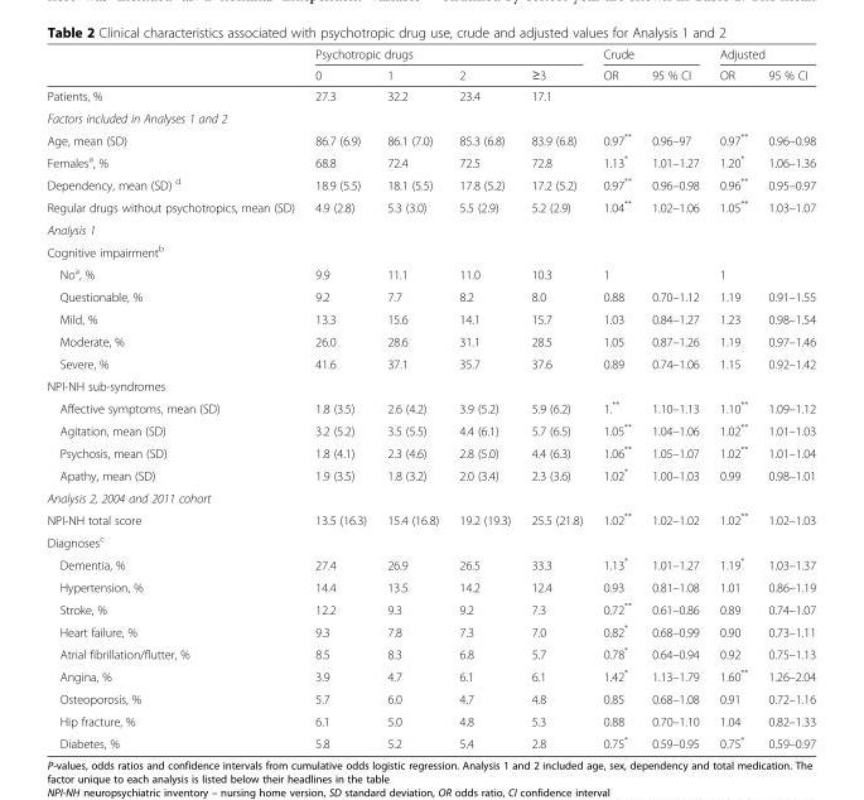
<table><thead><tr><td rowspan="2"></td><td colspan="4">Psychotropic drugs</td><td colspan="2">Crude</td><td colspan="2">Adjusted</td></tr><tr><td>0</td><td>1</td><td>2</td><td>≥3</td><td>OR</td><td>95 % CI</td><td>OR</td><td>95 % CI</td></tr></thead><tbody><tr><td>Patients, %</td><td>27.3</td><td>32.2</td><td>23.4</td><td>17.1</td><td></td><td></td><td></td><td></td></tr><tr><td colspan="9">Factors included in Analyses 1 and 2</td></tr><tr><td>Age, mean (SD)</td><td>86.7 (6.9)</td><td>86.1 (7.0)</td><td>85.3 (6.8)</td><td>83.9 (6.8)</td><td>0.97**</td><td>0.96–97</td><td>0.97**</td><td>0.96–0.98</td></tr><tr><td>Females<sup>a</sup>, %</td><td>68.8</td><td>72.4</td><td>72.5</td><td>72.8</td><td>1.13*</td><td>1.01–1.27</td><td>1.20*</td><td>1.06–1.36</td></tr><tr><td>Dependency, mean (SD) <sup>d</sup></td><td>18.9 (5.5)</td><td>18.1 (5.5)</td><td>17.8 (5.2)</td><td>17.2 (5.2)</td><td>0.97**</td><td>0.96–0.98</td><td>0.96**</td><td>0.95–0.97</td></tr><tr><td>Regular drugs without psychotropics, mean (SD)</td><td>4.9 (2.8)</td><td>5.3 (3.0)</td><td>5.5 (2.9)</td><td>5.2 (2.9)</td><td>1.04**</td><td>1.02–1.06</td><td>1.05**</td><td>1.03–1.07</td></tr><tr><td colspan="9">Analysis 1</td></tr><tr><td colspan="9">Cognitive impairment<sup>b</sup></td></tr><tr><td>No<sup>a</sup>, %</td><td>9.9</td><td>11.1</td><td>11.0</td><td>10.3</td><td>1</td><td></td><td>1</td><td></td></tr><tr><td>Questionable, %</td><td>9.2</td><td>7.7</td><td>8.2</td><td>8.0</td><td>0.88</td><td>0.70–1.12</td><td>1.19</td><td>0.91–1.55</td></tr><tr><td>Mild, %</td><td>13.3</td><td>15.6</td><td>14.1</td><td>15.7</td><td>1.03</td><td>0.84–1.27</td><td>1.23</td><td>0.98–1.54</td></tr><tr><td>Moderate, %</td><td>26.0</td><td>28.6</td><td>31.1</td><td>28.5</td><td>1.05</td><td>0.87–1.26</td><td>1.19</td><td>0.97–1.46</td></tr><tr><td>Severe, %</td><td>41.6</td><td>37.1</td><td>35.7</td><td>37.6</td><td>0.89</td><td>0.74–1.06</td><td>1.15</td><td>0.92–1.42</td></tr><tr><td colspan="9">NPI-NH sub-syndromes</td></tr><tr><td>Affective symptoms, mean (SD)</td><td>1.8 (3.5)</td><td>2.6 (4.2)</td><td>3.9 (5.2)</td><td>5.9 (6.2)</td><td>1.**</td><td>1.10–1.13</td><td>1.10**</td><td>1.09–1.12</td></tr><tr><td>Agitation, mean (SD)</td><td>3.2 (5.2)</td><td>3.5 (5.5)</td><td>4.4 (6.1)</td><td>5.7 (6.5)</td><td>1.05**</td><td>1.04–1.06</td><td>1.02**</td><td>1.01–1.03</td></tr><tr><td>Psychosis, mean (SD)</td><td>1.8 (4.1)</td><td>2.3 (4.6)</td><td>2.8 (5.0)</td><td>4.4 (6.3)</td><td>1.06**</td><td>1.05–1.07</td><td>1.02**</td><td>1.01–1.04</td></tr><tr><td>Apathy, mean (SD)</td><td>1.9 (3.5)</td><td>1.8 (3.2)</td><td>2.0 (3.4)</td><td>2.3 (3.6)</td><td>1.02*</td><td>1.00–1.03</td><td>0.99</td><td>0.98–1.01</td></tr><tr><td colspan="9">Analysis 2, 2004 and 2011 cohort</td></tr><tr><td>NPI-NH total score</td><td>13.5 (16.3)</td><td>15.4 (16.8)</td><td>19.2 (19.3)</td><td>25.5 (21.8)</td><td>1.02**</td><td>1.02–1.02</td><td>1.02**</td><td>1.02–1.03</td></tr><tr><td colspan="9">Diagnoses<sup>c</sup></td></tr><tr><td>Dementia, %</td><td>27.4</td><td>26.9</td><td>26.5</td><td>33.3</td><td>1.13*</td><td>1.01–1.27</td><td>1.19*</td><td>1.03–1.37</td></tr><tr><td>Hypertension, %</td><td>14.4</td><td>13.5</td><td>14.2</td><td>12.4</td><td>0.93</td><td>0.81–1.08</td><td>1.01</td><td>0.86–1.19</td></tr><tr><td>Stroke, %</td><td>12.2</td><td>9.3</td><td>9.2</td><td>7.3</td><td>0.72**</td><td>0.61–0.86</td><td>0.89</td><td>0.74–1.07</td></tr><tr><td>Heart failure, %</td><td>9.3</td><td>7.8</td><td>7.3</td><td>7.0</td><td>0.82*</td><td>0.68–0.99</td><td>0.90</td><td>0.73–1.11</td></tr><tr><td>Atrial fibrillation/flutter, %</td><td>8.5</td><td>8.3</td><td>6.8</td><td>5.7</td><td>0.78*</td><td>0.64–0.94</td><td>0.92</td><td>0.75–1.13</td></tr><tr><td>Angina, %</td><td>3.9</td><td>4.7</td><td>6.1</td><td>6.1</td><td>1.42*</td><td>1.13–1.79</td><td>1.60**</td><td>1.26–2.04</td></tr><tr><td>Osteoporosis, %</td><td>5.7</td><td>6.0</td><td>4.7</td><td>4.8</td><td>0.85</td><td>0.68–1.08</td><td>0.91</td><td>0.72–1.16</td></tr><tr><td>Hip fracture, %</td><td>6.1</td><td>5.0</td><td>4.8</td><td>5.3</td><td>0.88</td><td>0.70–1.10</td><td>1.04</td><td>0.82–1.33</td></tr><tr><td>Diabetes, %</td><td>5.8</td><td>5.2</td><td>5.4</td><td>2.8</td><td>0.75*</td><td>0.59–0.95</td><td>0.75*</td><td>0.59–0.97</td></tr></tbody></table>